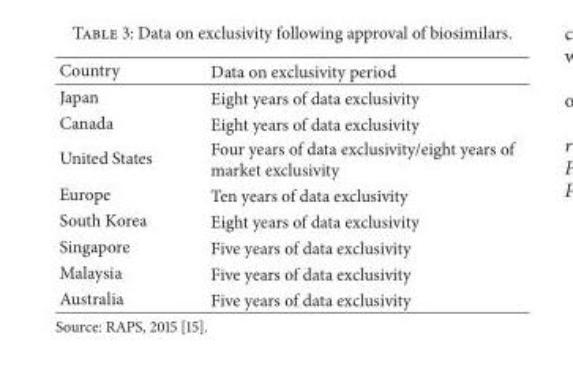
<table><thead><tr><td>Country</td><td>Data on exclusivity period</td></tr></thead><tbody><tr><td>Japan</td><td>Eight years of data exclusivity</td></tr><tr><td>Canada</td><td>Eight years of data exclusivity</td></tr><tr><td>United States</td><td>Four years of data exclusivity/eight years of market exclusivity</td></tr><tr><td>Europe</td><td>Ten years of data exclusivity</td></tr><tr><td>South Korea</td><td>Eight years of data exclusivity</td></tr><tr><td>Singapore</td><td>Five years of data exclusivity</td></tr><tr><td>Malaysia</td><td>Five years of data exclusivity</td></tr><tr><td>Australia</td><td>Five years of data exclusivity</td></tr></tbody></table>